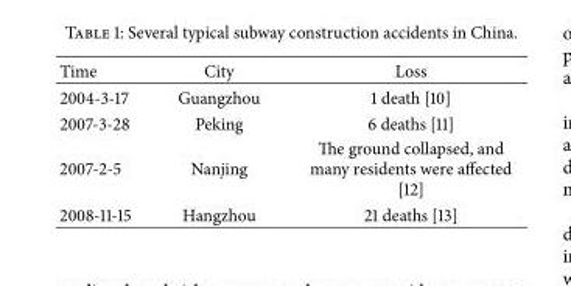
<table><thead><tr><td>Time</td><td>City</td><td>Loss</td></tr></thead><tbody><tr><td>2004-3-17</td><td>Guangzhou</td><td>1 death [10]</td></tr><tr><td>2007-3-28</td><td>Peking</td><td>6 deaths [11]</td></tr><tr><td>2007-2-5</td><td>Nanjing</td><td>The ground collapsed, and many residents were affected [12]</td></tr><tr><td>2008-11-15</td><td>Hangzhou</td><td>21 deaths [13]</td></tr></tbody></table>